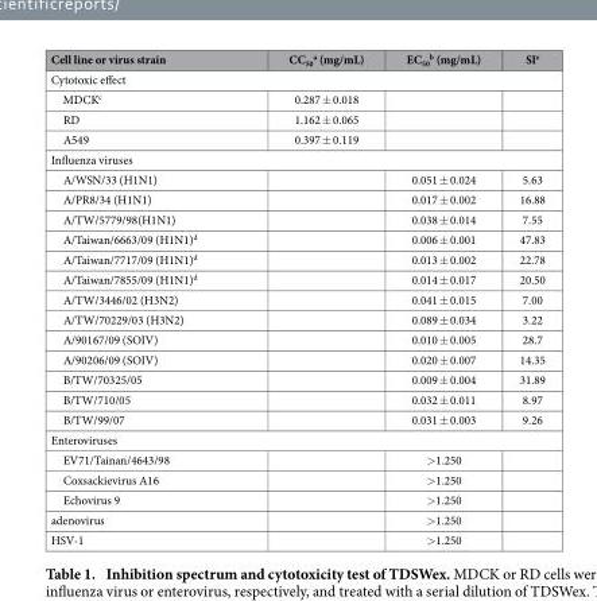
<table><thead><tr><td>Cell line or virus strain</td><td>CC<sub>50</sub> <sup>a</sup> (mg/mL)</td><td>EC<sub>50</sub> <sup>b</sup> (mg/mL)</td><td>SI<sup>e</sup></td></tr></thead><tbody><tr><td colspan="4">Cytotoxic effect</td></tr><tr><td>MDCK<sup>c</sup></td><td>0.287 ± 0.018</td><td></td><td></td></tr><tr><td>RD</td><td>1.162 ± 0.065</td><td></td><td></td></tr><tr><td>A549</td><td>0.397 ± 0.119</td><td></td><td></td></tr><tr><td colspan="4">Influenza viruses</td></tr><tr><td>A/WSN/33 (H1N1)</td><td></td><td>0.051 ± 0.024</td><td>5.63</td></tr><tr><td>A/PR8/34 (H1N1)</td><td></td><td>0.017 ± 0.002</td><td>16.88</td></tr><tr><td>A/TW/5779/98(H1N1)</td><td></td><td>0.038 ± 0.014</td><td>7.55</td></tr><tr><td>A/Taiwan/6663/09 (H1N1)<sup>d</sup></td><td></td><td>0.006 ± 0.001</td><td>47.83</td></tr><tr><td>A/Taiwan/7717/09 (H1N1)<sup>d</sup></td><td></td><td>0.013 ± 0.002</td><td>22.78</td></tr><tr><td>A/Taiwan/7855/09 (H1N1)<sup>d</sup></td><td></td><td>0.014 ± 0.017</td><td>20.50</td></tr><tr><td>A/TW/3446/02 (H3N2)</td><td></td><td>0.041 ± 0.015</td><td>7.00</td></tr><tr><td>A/TW/70229/03 (H3N2)</td><td></td><td>0.089 ± 0.034</td><td>3.22</td></tr><tr><td>A/90167/09 (SOIV)</td><td></td><td>0.010 ± 0.005</td><td>28.7</td></tr><tr><td>A/90206/09 (SOIV)</td><td></td><td>0.020 ± 0.007</td><td>14.35</td></tr><tr><td>B/TW/70325/05</td><td></td><td>0.009 ± 0.004</td><td>31.89</td></tr><tr><td>B/TW/710/05</td><td></td><td>0.032 ± 0.011</td><td>8.97</td></tr><tr><td>B/TW/99/07</td><td></td><td>0.031 ± 0.003</td><td>9.26</td></tr><tr><td colspan="4">Enteroviruses</td></tr><tr><td>EV71/Tainan/4643/98</td><td></td><td>&gt; 1.250</td><td></td></tr><tr><td>Coxsackievirus A16</td><td></td><td>&gt; 1.250</td><td></td></tr><tr><td>Echovirus 9</td><td></td><td>&gt; 1.250</td><td></td></tr><tr><td>adenovirus</td><td></td><td>&gt; 1.250</td><td></td></tr><tr><td>HSV-1</td><td></td><td>&gt; 1.250</td><td></td></tr></tbody></table>